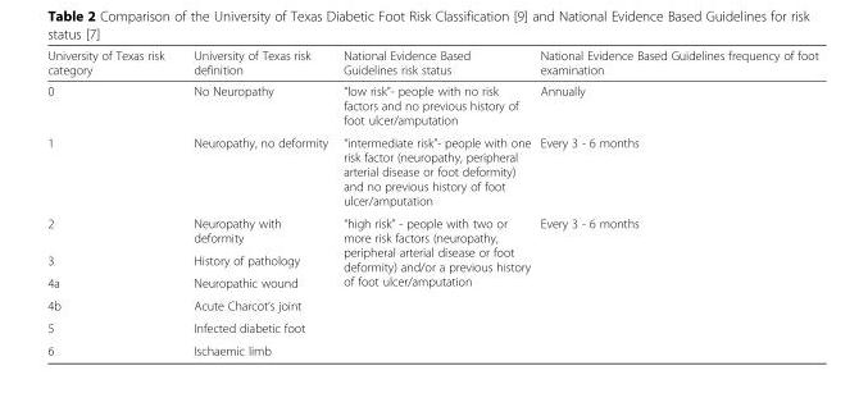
<table><thead><tr><td>University of Texas risk category</td><td>University of Texas risk definition</td><td>National Evidence Based Guidelines risk status</td><td>National Evidence Based Guidelines frequency of foot examination</td></tr></thead><tbody><tr><td>0</td><td>No Neuropathy</td><td>“low risk”- people with no risk factors and no previous history of foot ulcer/amputation</td><td>Annually</td></tr><tr><td>1</td><td>Neuropathy, no deformity</td><td>“intermediate risk”- people with one risk factor (neuropathy, peripheral arterial disease or foot deformity) and no previous history of foot ulcer/amputation</td><td>Every 3 - 6 months</td></tr><tr><td>2</td><td>Neuropathy with deformity</td><td rowspan="6">“high risk” - people with two or more risk factors (neuropathy, peripheral arterial disease or foot deformity) and/or a previous history of foot ulcer/amputation</td><td rowspan="6">Every 3 - 6 months</td></tr><tr><td>3</td><td>History of pathology</td></tr><tr><td>4a</td><td>Neuropathic wound</td></tr><tr><td>4b</td><td>Acute Charcot’s joint</td></tr><tr><td>5</td><td>Infected diabetic foot</td></tr><tr><td>6</td><td>Ischaemic limb</td></tr></tbody></table>